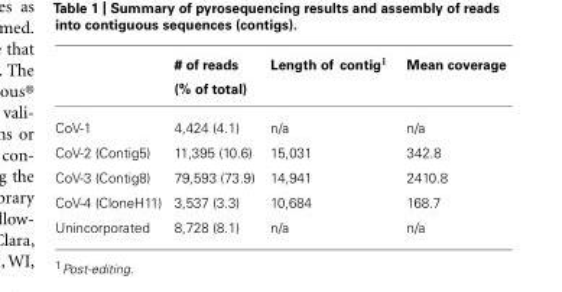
<table><thead><tr><td></td><td># of reads (% of total)</td><td>Length of contig<sup>1</sup></td><td>Mean coverage</td></tr></thead><tbody><tr><td>CoV-1</td><td>4,424 (4.1)</td><td>n/a</td><td>n/a</td></tr><tr><td>CoV-2 (Contig5)</td><td>11,395 (10.6)</td><td>15,031</td><td>342.8</td></tr><tr><td>CoV-3 (Contig8)</td><td>79,593 (73.9)</td><td>14,941</td><td>2410.8</td></tr><tr><td>CoV-4 (CloneH11)</td><td>3,537 (3.3)</td><td>10,684</td><td>168.7</td></tr><tr><td>Unincorporated</td><td>8,728 (8.1)</td><td>n/a</td><td>n/a</td></tr></tbody></table>